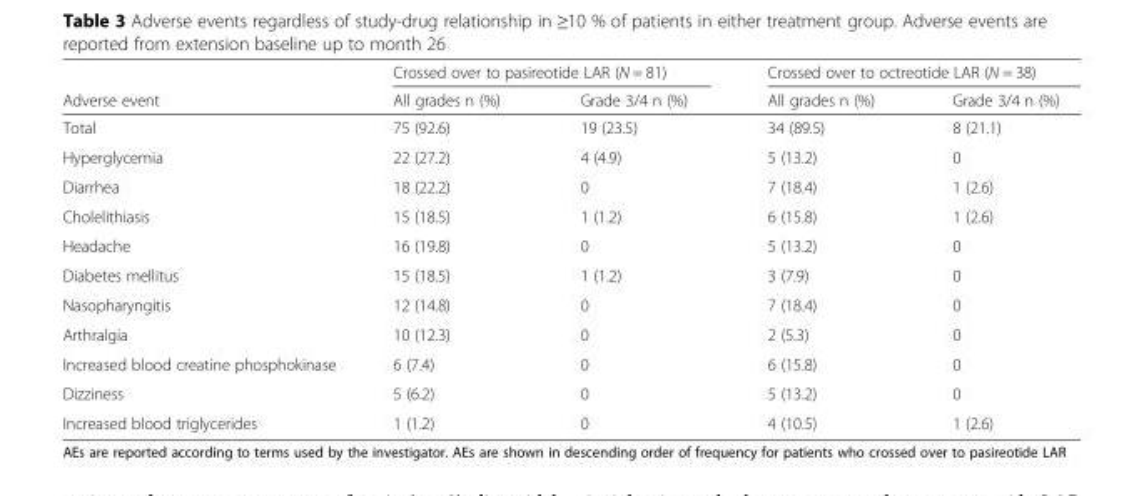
<table><thead><tr><td rowspan="2">Adverse event</td><td colspan="2">Crossed over to pasireotide LAR (N = 81)</td><td colspan="2">Crossed over to octreotide LAR (N = 38)</td></tr><tr><td>All grades n (%)</td><td>Grade 3/4 n (%)</td><td>All grades n (%)</td><td>Grade 3/4 n (%)</td></tr></thead><tbody><tr><td>Total</td><td>75 (92.6)</td><td>19 (23.5)</td><td>34 (89.5)</td><td>8 (21.1)</td></tr><tr><td>Hyperglycemia</td><td>22 (27.2)</td><td>4 (4.9)</td><td>5 (13.2)</td><td>0</td></tr><tr><td>Diarrhea</td><td>18 (22.2)</td><td>0</td><td>7 (18.4)</td><td>1 (2.6)</td></tr><tr><td>Cholelithiasis</td><td>15 (18.5)</td><td>1 (1.2)</td><td>6 (15.8)</td><td>1 (2.6)</td></tr><tr><td>Headache</td><td>16 (19.8)</td><td>0</td><td>5 (13.2)</td><td>0</td></tr><tr><td>Diabetes mellitus</td><td>15 (18.5)</td><td>1 (1.2)</td><td>3 (7.9)</td><td>0</td></tr><tr><td>Nasopharyngitis</td><td>12 (14.8)</td><td>0</td><td>7 (18.4)</td><td>0</td></tr><tr><td>Arthralgia</td><td>10 (12.3)</td><td>0</td><td>2 (5.3)</td><td>0</td></tr><tr><td>Increased blood creatine phosphokinase</td><td>6 (7.4)</td><td>0</td><td>6 (15.8)</td><td>0</td></tr><tr><td>Dizziness</td><td>5 (6.2)</td><td>0</td><td>5 (13.2)</td><td>0</td></tr><tr><td>Increased blood triglycerides</td><td>1 (1.2)</td><td>0</td><td>4 (10.5)</td><td>1 (2.6)</td></tr></tbody></table>